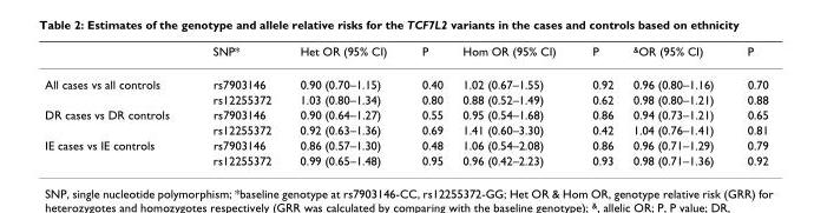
<table><thead><tr><td></td><td>SNP*</td><td>Het OR (95% CI)</td><td>P</td><td>Hom OR (95% CI)</td><td>P</td><td><sup>&amp;</sup>OR (95% CI)</td><td>P</td></tr></thead><tbody><tr><td rowspan="2">All cases vs all controls</td><td>rs7903146</td><td>0.90 (0.70–1.15)</td><td>0.40</td><td>1.02 (0.67–1.55)</td><td>0.92</td><td>0.96 (0.80–1.16)</td><td>0.70</td></tr><tr><td>rs12255372</td><td>1.03 (0.80–1.34)</td><td>0.80</td><td>0.88 (0.52–1.49)</td><td>0.62</td><td>0.98 (0.80–1.21)</td><td>0.88</td></tr><tr><td rowspan="2">DR cases vs DR controls</td><td>rs7903146</td><td>0.90 (0.64–1.27)</td><td>0.55</td><td>0.95 (0.54–1.68)</td><td>0.86</td><td>0.94 (0.73–1.21)</td><td>0.65</td></tr><tr><td>rs12255372</td><td>0.92 (0.63–1.36)</td><td>0.69</td><td>1.41 (0.60–3.30)</td><td>0.42</td><td>1.04 (0.76–1.41)</td><td>0.81</td></tr><tr><td rowspan="2">IE cases vs IE controls</td><td>rs7903146</td><td>0.86 (0.57–1.30)</td><td>0.48</td><td>1.06 (0.54–2.08)</td><td>0.86</td><td>0.96 (0.71–1.29)</td><td>0.79</td></tr><tr><td>rs12255372</td><td>0.99 (0.65–1.48)</td><td>0.95</td><td>0.96 (0.42–2.23)</td><td>0.93</td><td>0.98 (0.71–1.36)</td><td>0.92</td></tr></tbody></table>